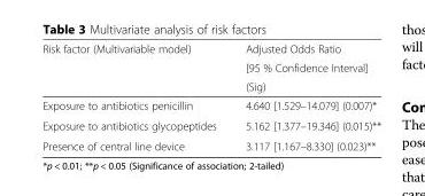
<table><thead><tr><td rowspan="3">Risk factor (Multivariable model)</td><td rowspan="3">Adjusted Odds Ratio [95 % Confidence Interval] (Sig)</td></tr><tr></tr><tr></tr></thead><tbody><tr><td>Exposure to antibiotics penicillin</td><td>4.640 [1.529–14.079] (0.007)*</td></tr><tr><td>Exposure to antibiotics glycopeptides</td><td>5.162 [1.377–19.346] (0.015)**</td></tr><tr><td>Presence of central line device</td><td>3.117 [1.167–8.330] (0.023)**</td></tr></tbody></table>